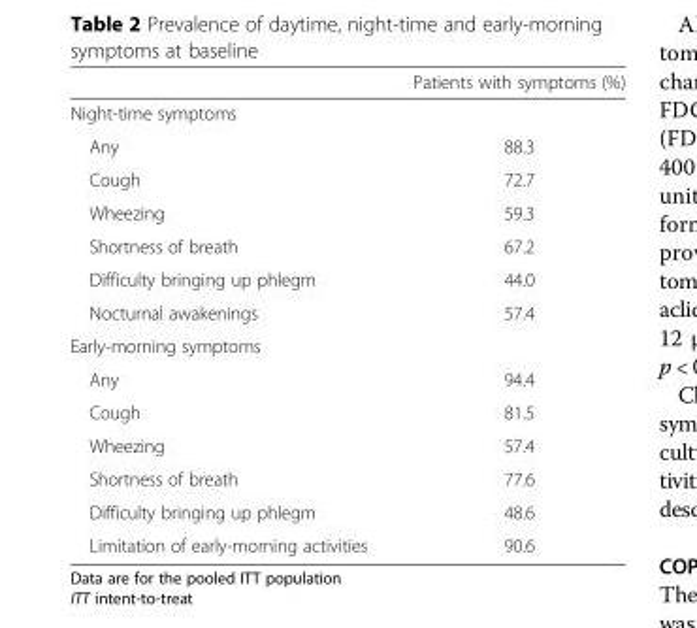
<table><thead><tr><td></td><td>Patients with symptoms (%)</td></tr></thead><tbody><tr><td colspan="2">Night-time symptoms</td></tr><tr><td>Any</td><td>88.3</td></tr><tr><td>Cough</td><td>72.7</td></tr><tr><td>Wheezing</td><td>59.3</td></tr><tr><td>Shortness of breath</td><td>67.2</td></tr><tr><td>Difficulty bringing up phlegm</td><td>44.0</td></tr><tr><td>Nocturnal awakenings</td><td>57.4</td></tr><tr><td colspan="2">Early-morning symptoms</td></tr><tr><td>Any</td><td>94.4</td></tr><tr><td>Cough</td><td>81.5</td></tr><tr><td>Wheezing</td><td>57.4</td></tr><tr><td>Shortness of breath</td><td>77.6</td></tr><tr><td>Difficulty bringing up phlegm</td><td>48.6</td></tr><tr><td>Limitation of early-morning activities</td><td>90.6</td></tr></tbody></table>